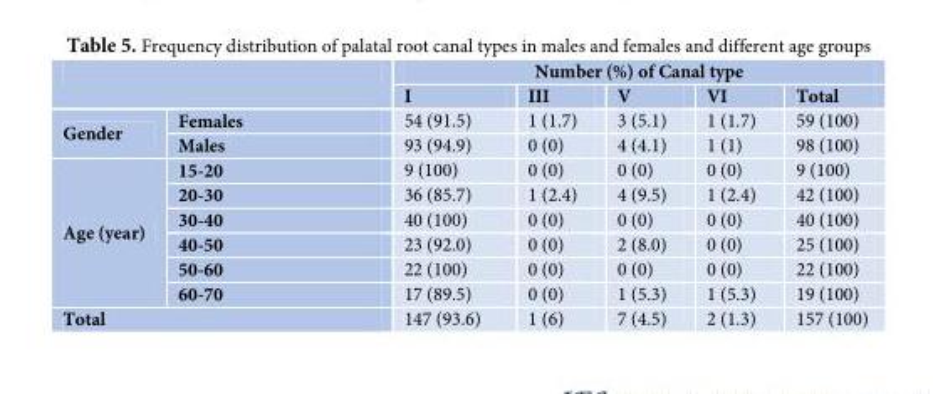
<table><thead><tr><td rowspan="2"></td><td rowspan="2"></td><td colspan="5">Number (%) of Canal type</td></tr><tr><td>I</td><td>III</td><td>V</td><td>VI</td><td>Total</td></tr></thead><tbody><tr><td rowspan="2">Gender</td><td>Females</td><td>54 (91.5)</td><td>1 (1.7)</td><td>3 (5.1)</td><td>1 (1.7)</td><td>59 (100)</td></tr><tr><td>Males</td><td>93 (94.9)</td><td>0 (0)</td><td>4 (4.1)</td><td>1 (1)</td><td>98 (100)</td></tr><tr><td rowspan="6">Age (year)</td><td>15-20</td><td>9 (100)</td><td>0 (0)</td><td>0 (0)</td><td>0 (0)</td><td>9 (100)</td></tr><tr><td>20-30</td><td>36 (85.7)</td><td>1 (2.4)</td><td>4 (9.5)</td><td>1 (2.4)</td><td>42 (100)</td></tr><tr><td>30-40</td><td>40 (100)</td><td>0 (0)</td><td>0 (0)</td><td>0 (0)</td><td>40 (100)</td></tr><tr><td>40-50</td><td>23 (92.0)</td><td>0 (0)</td><td>2 (8.0)</td><td>0 (0)</td><td>25 (100)</td></tr><tr><td>50-60</td><td>22 (100)</td><td>0 (0)</td><td>0 (0)</td><td>0 (0)</td><td>22 (100)</td></tr><tr><td>60-70</td><td>17 (89.5)</td><td>0 (0)</td><td>1 (5.3)</td><td>1 (5.3)</td><td>19 (100)</td></tr><tr><td colspan="2">Total</td><td>147 (93.6)</td><td>1 (6)</td><td>7 (4.5)</td><td>2 (1.3)</td><td>157 (100)</td></tr></tbody></table>